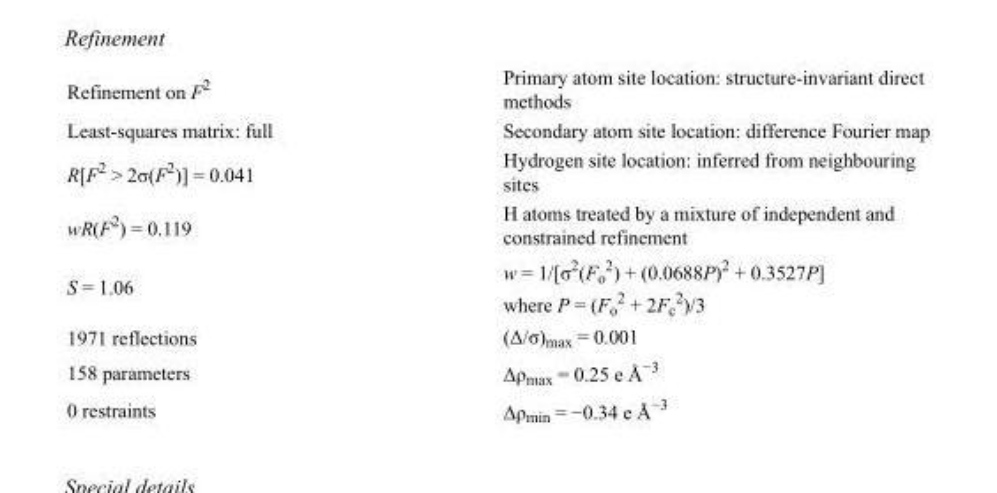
<table><tbody><tr><td>Refinement on F<sup>2</sup></td><td>Primary atom site location: structure-invariant direct methods</td></tr><tr><td>Least-squares matrix: full</td><td>Secondary atom site location: difference Fourier map</td></tr><tr><td>R[F<sup>2</sup> &gt; 2σ(F<sup>2</sup>)] = 0.041</td><td>Hydrogen site location: inferred from neighbouring sites</td></tr><tr><td>wR(F<sup>2</sup>) = 0.119</td><td>H atoms treated by a mixture of independent and constrained refinement</td></tr><tr><td>S = 1.06</td><td>w = 1/[σ<sup>2</sup>(F<sub>o</sub> <sup>2</sup>) + (0.0688P)<sup>2</sup> + 0.3527P] where P = (F<sub>o</sub> <sup>2</sup> + 2F<sub>c</sub> <sup>2</sup>)/3</td></tr><tr><td>1971 reflections</td><td>(Δ/σ)<sub>max</sub> = 0.001</td></tr><tr><td>158 parameters</td><td>Δρ<sub>max</sub> = 0.25 e Å<sup>−3</sup></td></tr><tr><td>0 restraints</td><td>Δρ<sub>min</sub> = −0.34 e Å<sup>−3</sup></td></tr></tbody></table>